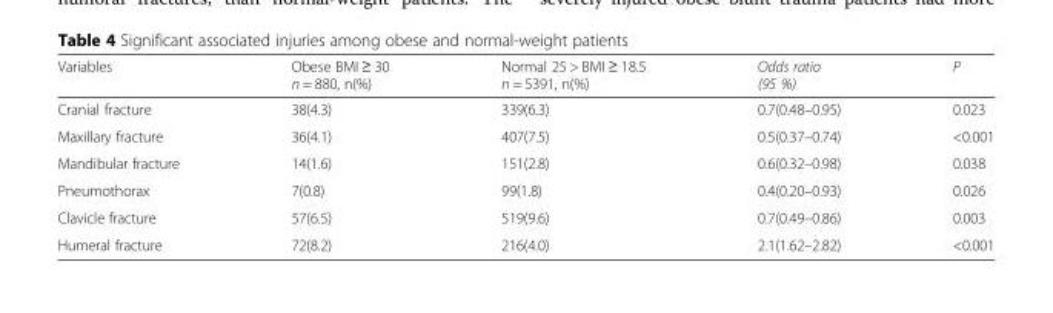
<table><thead><tr><td>Variables</td><td>Obese BMI ≥ 30 n = 880, n(%)</td><td>Normal 25 &gt; BMI ≥ 18.5 n = 5391, n(%)</td><td>Odds ratio (95 %)</td><td>P</td></tr></thead><tbody><tr><td>Cranial fracture</td><td>38(4.3)</td><td>339(6.3)</td><td>0.7(0.48–0.95)</td><td>0.023</td></tr><tr><td>Maxillary fracture</td><td>36(4.1)</td><td>407(7.5)</td><td>0.5(0.37–0.74)</td><td>&lt;0.001</td></tr><tr><td>Mandibular fracture</td><td>14(1.6)</td><td>151(2.8)</td><td>0.6(0.32–0.98)</td><td>0.038</td></tr><tr><td>Pneumothorax</td><td>7(0.8)</td><td>99(1.8)</td><td>0.4(0.20–0.93)</td><td>0.026</td></tr><tr><td>Clavicle fracture</td><td>57(6.5)</td><td>519(9.6)</td><td>0.7(0.49–0.86)</td><td>0.003</td></tr><tr><td>Humeral fracture</td><td>72(8.2)</td><td>216(4.0)</td><td>2.1(1.62–2.82)</td><td>&lt;0.001</td></tr></tbody></table>